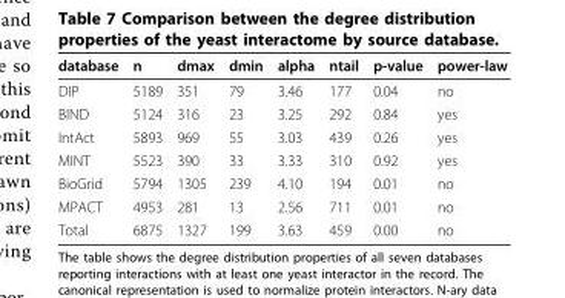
<table><thead><tr><td>database</td><td>n</td><td>dmax</td><td>dmin</td><td>alpha</td><td>ntail</td><td>p-value</td><td>power-law</td></tr></thead><tbody><tr><td>DIP</td><td>5189</td><td>351</td><td>79</td><td>3.46</td><td>177</td><td>0.04</td><td>no</td></tr><tr><td>BIND</td><td>5124</td><td>316</td><td>23</td><td>3.25</td><td>292</td><td>0.84</td><td>yes</td></tr><tr><td>IntAct</td><td>5893</td><td>969</td><td>55</td><td>3.03</td><td>439</td><td>0.26</td><td>yes</td></tr><tr><td>MINT</td><td>5523</td><td>390</td><td>33</td><td>3.33</td><td>310</td><td>0.92</td><td>yes</td></tr><tr><td>BioGrid</td><td>5794</td><td>1305</td><td>239</td><td>4.10</td><td>194</td><td>0.01</td><td>no</td></tr><tr><td>MPACT</td><td>4953</td><td>281</td><td>13</td><td>2.56</td><td>711</td><td>0.01</td><td>no</td></tr><tr><td>Total</td><td>6875</td><td>1327</td><td>199</td><td>3.63</td><td>459</td><td>0.00</td><td>no</td></tr></tbody></table>